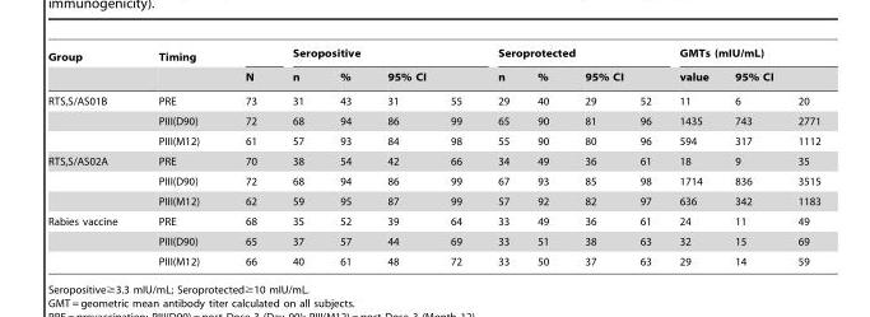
<table><thead><tr><td rowspan="3">Group RTS,S/AS01B</td><td rowspan="3">Timing PRE</td><td rowspan="3">N 73</td><td colspan="4">Seropositive</td><td colspan="4">Seroprotected</td><td colspan="3">GMTs (mIU/mL)</td></tr><tr><td rowspan="2">n 31</td><td rowspan="2">% 43</td><td colspan="2">95% CI</td><td rowspan="2">n 29</td><td rowspan="2">% 40</td><td colspan="2">95% CI</td><td rowspan="2">value 11</td><td colspan="2">95% CI</td></tr><tr><td>31</td><td>55</td><td>29</td><td>52</td><td>6</td><td>20</td></tr></thead><tbody><tr><td></td><td>PIII(D90)</td><td>72</td><td>68</td><td>94</td><td>86</td><td>99</td><td>65</td><td>90</td><td>81</td><td>96</td><td>1435</td><td>743</td><td>2771</td></tr><tr><td></td><td>PIII(M12)</td><td>61</td><td>57</td><td>93</td><td>84</td><td>98</td><td>55</td><td>90</td><td>80</td><td>96</td><td>594</td><td>317</td><td>1112</td></tr><tr><td rowspan="3">RTS,S/AS02A</td><td>PRE</td><td>70</td><td>38</td><td>54</td><td>42</td><td>66</td><td>34</td><td>49</td><td>36</td><td>61</td><td>18</td><td>9</td><td>35</td></tr><tr><td>PIII(D90)</td><td>72</td><td>68</td><td>94</td><td>86</td><td>99</td><td>67</td><td>93</td><td>85</td><td>98</td><td>1714</td><td>836</td><td>3515</td></tr><tr><td>PIII(M12)</td><td>62</td><td>59</td><td>95</td><td>87</td><td>99</td><td>57</td><td>92</td><td>82</td><td>97</td><td>636</td><td>342</td><td>1183</td></tr><tr><td rowspan="3">Rabies vaccine</td><td>PRE</td><td>68</td><td>35</td><td>52</td><td>39</td><td>64</td><td>33</td><td>49</td><td>36</td><td>61</td><td>24</td><td>11</td><td>49</td></tr><tr><td>PIII(D90)</td><td>65</td><td>37</td><td>57</td><td>44</td><td>69</td><td>33</td><td>51</td><td>38</td><td>63</td><td>32</td><td>15</td><td>69</td></tr><tr><td>PIII(M12)</td><td>66</td><td>40</td><td>61</td><td>48</td><td>72</td><td>33</td><td>50</td><td>37</td><td>63</td><td>29</td><td>14</td><td>59</td></tr></tbody></table>